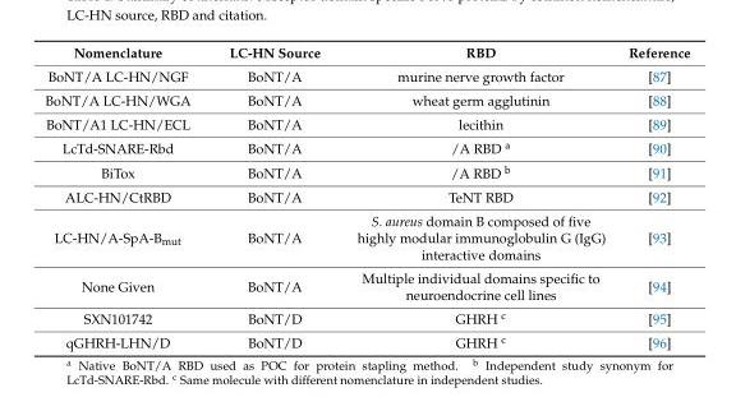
<table><thead><tr><td>Nomenclature</td><td>LC-HN Source</td><td>RBD</td><td>Reference</td></tr></thead><tbody><tr><td>BoNT/A LC-HN/NGF</td><td>BoNT/A</td><td>murine nerve growth factor</td><td>[87]</td></tr><tr><td>BoNT/A LC-HN/WGA</td><td>BoNT/A</td><td>wheat germ agglutinin</td><td>[88]</td></tr><tr><td>BoNT/A1 LC-HN/ECL</td><td>BoNT/A</td><td>lecithin</td><td>[89]</td></tr><tr><td>LcTd-SNARE-Rbd</td><td>BoNT/A</td><td>/A RBD <sup>a</sup></td><td>[90]</td></tr><tr><td>BiTox</td><td>BoNT/A</td><td>/A RBD <sup>b</sup></td><td>[91]</td></tr><tr><td>ALC-HN/CtRBD</td><td>BoNT/A</td><td>TeNT RBD</td><td>[92]</td></tr><tr><td>LC-HN/A-SpA-B<sub>mut</sub></td><td>BoNT/A</td><td>S. aureus domain B composed of five highly modular immunoglobulin G (IgG) interactive domains</td><td>[93]</td></tr><tr><td>None Given</td><td>BoNT/A</td><td>Multiple individual domains specific to neuroendocrine cell lines</td><td>[94]</td></tr><tr><td>SXN101742</td><td>BoNT/D</td><td>GHRH <sup>c</sup></td><td>[95]</td></tr><tr><td>qGHRH-LHN/D</td><td>BoNT/D</td><td>GHRH <sup>c</sup></td><td>[96]</td></tr></tbody></table>